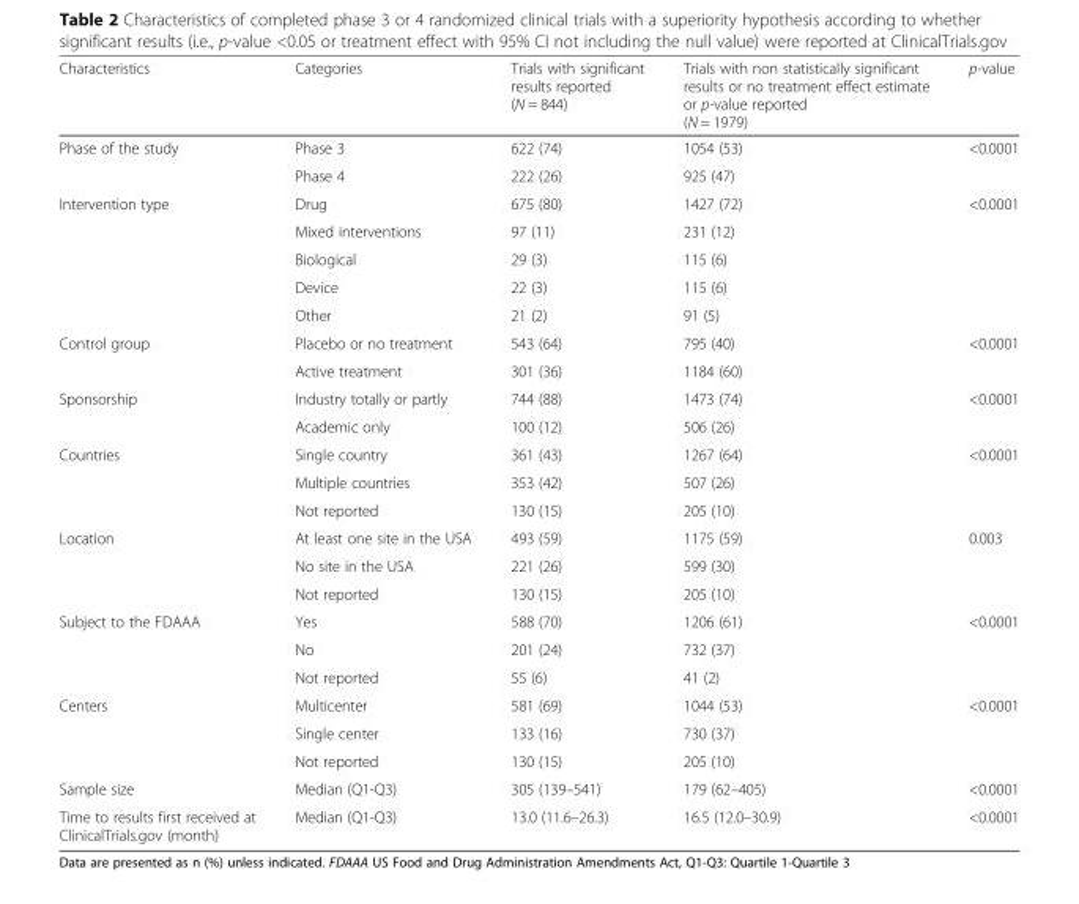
<table><thead><tr><td>Characteristics</td><td>Categories</td><td>Trials with significant results reported (N = 844)</td><td>Trials with non statistically significant results or no treatment effect estimate or p-value reported (N = 1979)</td><td>p-value</td></tr></thead><tbody><tr><td rowspan="2">Phase of the study</td><td>Phase 3</td><td>622 (74)</td><td>1054 (53)</td><td rowspan="2">&lt;0.0001</td></tr><tr><td>Phase 4</td><td>222 (26)</td><td>925 (47)</td></tr><tr><td rowspan="5">Intervention type</td><td>Drug</td><td>675 (80)</td><td>1427 (72)</td><td rowspan="5">&lt;0.0001</td></tr><tr><td>Mixed interventions</td><td>97 (11)</td><td>231 (12)</td></tr><tr><td>Biological</td><td>29 (3)</td><td>115 (6)</td></tr><tr><td>Device</td><td>22 (3)</td><td>115 (6)</td></tr><tr><td>Other</td><td>21 (2)</td><td>91 (5)</td></tr><tr><td rowspan="2">Control group</td><td>Placebo or no treatment</td><td>543 (64)</td><td>795 (40)</td><td rowspan="2">&lt;0.0001</td></tr><tr><td>Active treatment</td><td>301 (36)</td><td>1184 (60)</td></tr><tr><td rowspan="2">Sponsorship</td><td>Industry totally or partly</td><td>744 (88)</td><td>1473 (74)</td><td rowspan="2">&lt;0.0001</td></tr><tr><td>Academic only</td><td>100 (12)</td><td>506 (26)</td></tr><tr><td rowspan="3">Countries</td><td>Single country</td><td>361 (43)</td><td>1267 (64)</td><td rowspan="3">&lt;0.0001</td></tr><tr><td>Multiple countries</td><td>353 (42)</td><td>507 (26)</td></tr><tr><td>Not reported</td><td>130 (15)</td><td>205 (10)</td></tr><tr><td rowspan="3">Location</td><td>At least one site in the USA</td><td>493 (59)</td><td>1175 (59)</td><td rowspan="3">0.003</td></tr><tr><td>No site in the USA</td><td>221 (26)</td><td>599 (30)</td></tr><tr><td>Not reported</td><td>130 (15)</td><td>205 (10)</td></tr><tr><td rowspan="3">Subject to the FDAAA</td><td>Yes</td><td>588 (70)</td><td>1206 (61)</td><td rowspan="3">&lt;0.0001</td></tr><tr><td>No</td><td>201 (24)</td><td>732 (37)</td></tr><tr><td>Not reported</td><td>55 (6)</td><td>41 (2)</td></tr><tr><td rowspan="3">Centers</td><td>Multicenter</td><td>581 (69)</td><td>1044 (53)</td><td rowspan="3">&lt;0.0001</td></tr><tr><td>Single center</td><td>133 (16)</td><td>730 (37)</td></tr><tr><td>Not reported</td><td>130 (15)</td><td>205 (10)</td></tr><tr><td>Sample size</td><td>Median (Q1-Q3)</td><td>305 (139–541)</td><td>179 (62–405)</td><td>&lt;0.0001</td></tr><tr><td>Time to results first received at ClinicalTrials.gov (month)</td><td>Median (Q1-Q3)</td><td>13.0 (11.6–26.3)</td><td>16.5 (12.0–30.9)</td><td>&lt;0.0001</td></tr></tbody></table>